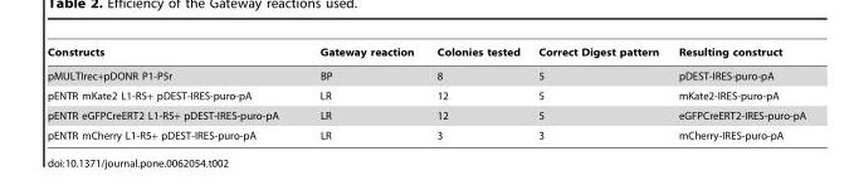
<table><thead><tr><td>Constructs</td><td>Gateway reaction</td><td>Colonies tested</td><td>Correct Digest pattern</td><td>Resulting construct</td></tr></thead><tbody><tr><td>pMULTIrec+pDONR P1-P5r</td><td>BP</td><td>8</td><td>5</td><td>pDEST-IRES-puro-pA</td></tr><tr><td>pENTR mKate2 L1-R5+ pDEST-IRES-puro-pA</td><td>LR</td><td>12</td><td>5</td><td>mKate2-IRES-puro-pA</td></tr><tr><td>pENTR eGFPCreERT2 L1-R5+ pDEST-IRES-puro-pA</td><td>LR</td><td>12</td><td>5</td><td>eGFPCreERT2-IRES-puro-pA</td></tr><tr><td>pENTR mCherry L1-R5+ pDEST-IRES-puro-pA</td><td>LR</td><td>3</td><td>3</td><td>mCherry-IRES-puro-pA</td></tr></tbody></table>